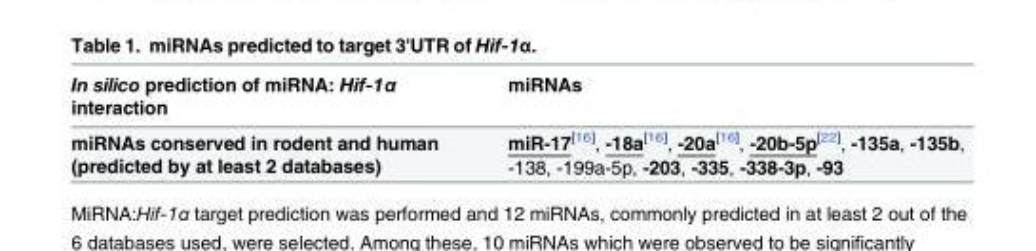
<table><thead><tr><td>In silico prediction of miRNA: Hif-1α interaction</td><td>miRNAs</td></tr></thead><tbody><tr><td>miRNAs conserved in rodent and human (predicted by at least 2 databases)</td><td>miR-17[16], -18a[16], -20a[16], -20b-5p[22], -135a, -135b, -138, -199a-5p, -203, -335, -338-3p, -93</td></tr></tbody></table>